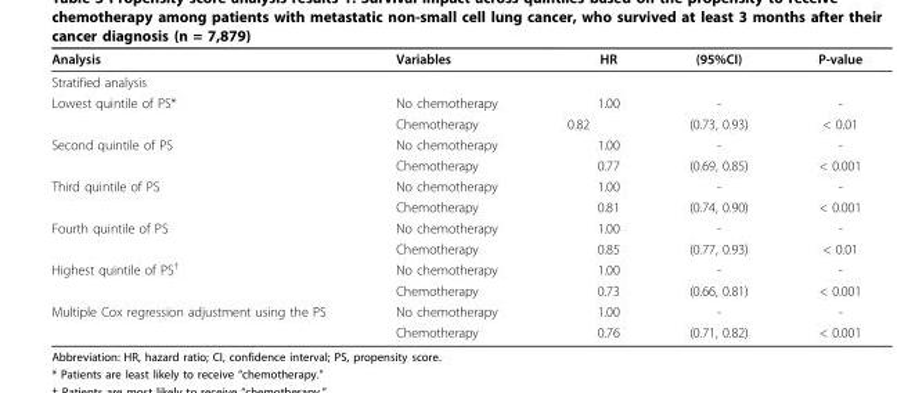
<table><thead><tr><td>Analysis</td><td>Variables</td><td>HR</td><td>(95%CI)</td><td>P-value</td></tr></thead><tbody><tr><td colspan="5">Stratified analysis</td></tr><tr><td rowspan="2">Lowest quintile of PS*</td><td>No chemotherapy</td><td>1.00</td><td>-</td><td>-</td></tr><tr><td>Chemotherapy</td><td>0.82</td><td>(0.73, 0.93)</td><td>&lt; 0.01</td></tr><tr><td rowspan="2">Second quintile of PS</td><td>No chemotherapy</td><td>1.00</td><td>-</td><td>-</td></tr><tr><td>Chemotherapy</td><td>0.77</td><td>(0.69, 0.85)</td><td>&lt; 0.001</td></tr><tr><td rowspan="2">Third quintile of PS</td><td>No chemotherapy</td><td>1.00</td><td>-</td><td>-</td></tr><tr><td>Chemotherapy</td><td>0.81</td><td>(0.74, 0.90)</td><td>&lt; 0.001</td></tr><tr><td rowspan="2">Fourth quintile of PS</td><td>No chemotherapy</td><td>1.00</td><td>-</td><td>-</td></tr><tr><td>Chemotherapy</td><td>0.85</td><td>(0.77, 0.93)</td><td>&lt; 0.01</td></tr><tr><td rowspan="2">Highest quintile of PS<sup>†</sup></td><td>No chemotherapy</td><td>1.00</td><td>-</td><td>-</td></tr><tr><td>Chemotherapy</td><td>0.73</td><td>(0.66, 0.81)</td><td>&lt; 0.001</td></tr><tr><td rowspan="2">Multiple Cox regression adjustment using the PS</td><td>No chemotherapy</td><td>1.00</td><td>-</td><td>-</td></tr><tr><td>Chemotherapy</td><td>0.76</td><td>(0.71, 0.82)</td><td>&lt; 0.001</td></tr></tbody></table>